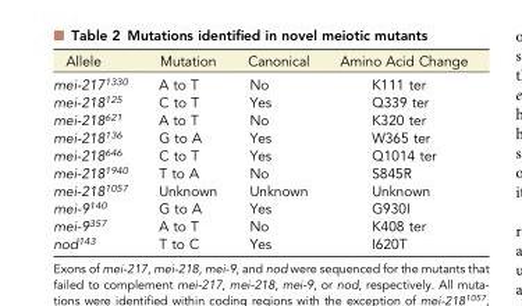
<table><thead><tr><td>Allele</td><td>Mutation</td><td>Canonical</td><td>Amino Acid Change</td></tr></thead><tbody><tr><td>mei-217<sup>1330</sup></td><td>A to T</td><td>No</td><td>K111 ter</td></tr><tr><td>mei-218<sup>125</sup></td><td>C to T</td><td>Yes</td><td>Q339 ter</td></tr><tr><td>mei-218<sup>621</sup></td><td>A to T</td><td>No</td><td>K320 ter</td></tr><tr><td>mei-218<sup>136</sup></td><td>G to A</td><td>Yes</td><td>W365 ter</td></tr><tr><td>mei-218<sup>646</sup></td><td>C to T</td><td>Yes</td><td>Q1014 ter</td></tr><tr><td>mei-218<sup>1940</sup></td><td>T to A</td><td>No</td><td>S845R</td></tr><tr><td>mei-218<sup>1057</sup></td><td>Unknown</td><td>Unknown</td><td>Unknown</td></tr><tr><td>mei-9<sup>140</sup></td><td>G to A</td><td>Yes</td><td>G930I</td></tr><tr><td>mei-9<sup>357</sup></td><td>A to T</td><td>No</td><td>K408 ter</td></tr><tr><td>nod<sup>143</sup></td><td>T to C</td><td>Yes</td><td>I620T</td></tr></tbody></table>